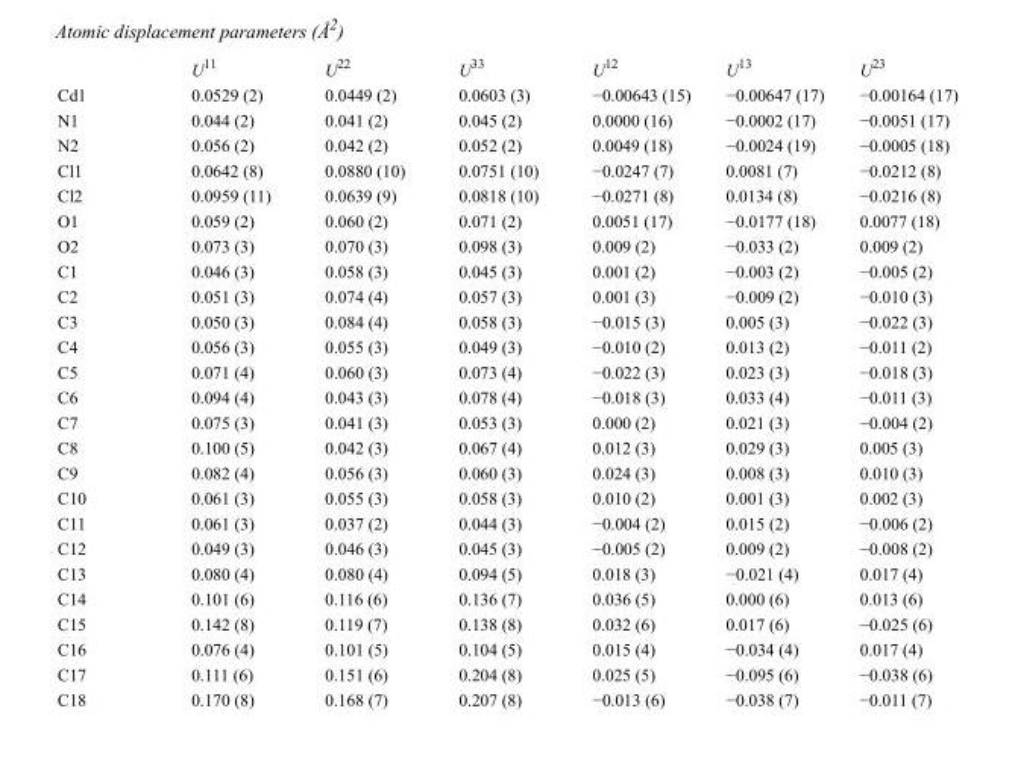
<table><thead><tr><td></td><td>U<sup>11</sup></td><td>U<sup>22</sup></td><td>U<sup>33</sup></td><td>U<sup>12</sup></td><td>U<sup>13</sup></td><td>U<sup>23</sup></td></tr></thead><tbody><tr><td>Cd1</td><td>0.0529 (2)</td><td>0.0449 (2)</td><td>0.0603 (3)</td><td>−0.00643 (15)</td><td>−0.00647 (17)</td><td>−0.00164 (17)</td></tr><tr><td>N1</td><td>0.044 (2)</td><td>0.041 (2)</td><td>0.045 (2)</td><td>0.0000 (16)</td><td>−0.0002 (17)</td><td>−0.0051 (17)</td></tr><tr><td>N2</td><td>0.056 (2)</td><td>0.042 (2)</td><td>0.052 (2)</td><td>0.0049 (18)</td><td>−0.0024 (19)</td><td>−0.0005 (18)</td></tr><tr><td>Cl1</td><td>0.0642 (8)</td><td>0.0880 (10)</td><td>0.0751 (10)</td><td>−0.0247 (7)</td><td>0.0081 (7)</td><td>−0.0212 (8)</td></tr><tr><td>Cl2</td><td>0.0959 (11)</td><td>0.0639 (9)</td><td>0.0818 (10)</td><td>−0.0271 (8)</td><td>0.0134 (8)</td><td>−0.0216 (8)</td></tr><tr><td>O1</td><td>0.059 (2)</td><td>0.060 (2)</td><td>0.071 (2)</td><td>0.0051 (17)</td><td>−0.0177 (18)</td><td>0.0077 (18)</td></tr><tr><td>O2</td><td>0.073 (3)</td><td>0.070 (3)</td><td>0.098 (3)</td><td>0.009 (2)</td><td>−0.033 (2)</td><td>0.009 (2)</td></tr><tr><td>C1</td><td>0.046 (3)</td><td>0.058 (3)</td><td>0.045 (3)</td><td>0.001 (2)</td><td>−0.003 (2)</td><td>−0.005 (2)</td></tr><tr><td>C2</td><td>0.051 (3)</td><td>0.074 (4)</td><td>0.057 (3)</td><td>0.001 (3)</td><td>−0.009 (2)</td><td>−0.010 (3)</td></tr><tr><td>C3</td><td>0.050 (3)</td><td>0.084 (4)</td><td>0.058 (3)</td><td>−0.015 (3)</td><td>0.005 (3)</td><td>−0.022 (3)</td></tr><tr><td>C4</td><td>0.056 (3)</td><td>0.055 (3)</td><td>0.049 (3)</td><td>−0.010 (2)</td><td>0.013 (2)</td><td>−0.011 (2)</td></tr><tr><td>C5</td><td>0.071 (4)</td><td>0.060 (3)</td><td>0.073 (4)</td><td>−0.022 (3)</td><td>0.023 (3)</td><td>−0.018 (3)</td></tr><tr><td>C6</td><td>0.094 (4)</td><td>0.043 (3)</td><td>0.078 (4)</td><td>−0.018 (3)</td><td>0.033 (4)</td><td>−0.011 (3)</td></tr><tr><td>C7</td><td>0.075 (3)</td><td>0.041 (3)</td><td>0.053 (3)</td><td>0.000 (2)</td><td>0.021 (3)</td><td>−0.004 (2)</td></tr><tr><td>C8</td><td>0.100 (5)</td><td>0.042 (3)</td><td>0.067 (4)</td><td>0.012 (3)</td><td>0.029 (3)</td><td>0.005 (3)</td></tr><tr><td>C9</td><td>0.082 (4)</td><td>0.056 (3)</td><td>0.060 (3)</td><td>0.024 (3)</td><td>0.008 (3)</td><td>0.010 (3)</td></tr><tr><td>C10</td><td>0.061 (3)</td><td>0.055 (3)</td><td>0.058 (3)</td><td>0.010 (2)</td><td>0.001 (3)</td><td>0.002 (3)</td></tr><tr><td>C11</td><td>0.061 (3)</td><td>0.037 (2)</td><td>0.044 (3)</td><td>−0.004 (2)</td><td>0.015 (2)</td><td>−0.006 (2)</td></tr><tr><td>C12</td><td>0.049 (3)</td><td>0.046 (3)</td><td>0.045 (3)</td><td>−0.005 (2)</td><td>0.009 (2)</td><td>−0.008 (2)</td></tr><tr><td>C13</td><td>0.080 (4)</td><td>0.080 (4)</td><td>0.094 (5)</td><td>0.018 (3)</td><td>−0.021 (4)</td><td>0.017 (4)</td></tr><tr><td>C14</td><td>0.101 (6)</td><td>0.116 (6)</td><td>0.136 (7)</td><td>0.036 (5)</td><td>0.000 (6)</td><td>0.013 (6)</td></tr><tr><td>C15</td><td>0.142 (8)</td><td>0.119 (7)</td><td>0.138 (8)</td><td>0.032 (6)</td><td>0.017 (6)</td><td>−0.025 (6)</td></tr><tr><td>C16</td><td>0.076 (4)</td><td>0.101 (5)</td><td>0.104 (5)</td><td>0.015 (4)</td><td>−0.034 (4)</td><td>0.017 (4)</td></tr><tr><td>C17</td><td>0.111 (6)</td><td>0.151 (6)</td><td>0.204 (8)</td><td>0.025 (5)</td><td>−0.095 (6)</td><td>−0.038 (6)</td></tr><tr><td>C18</td><td>0.170 (8)</td><td>0.168 (7)</td><td>0.207 (8)</td><td>−0.013 (6)</td><td>−0.038 (7)</td><td>−0.011 (7)</td></tr></tbody></table>